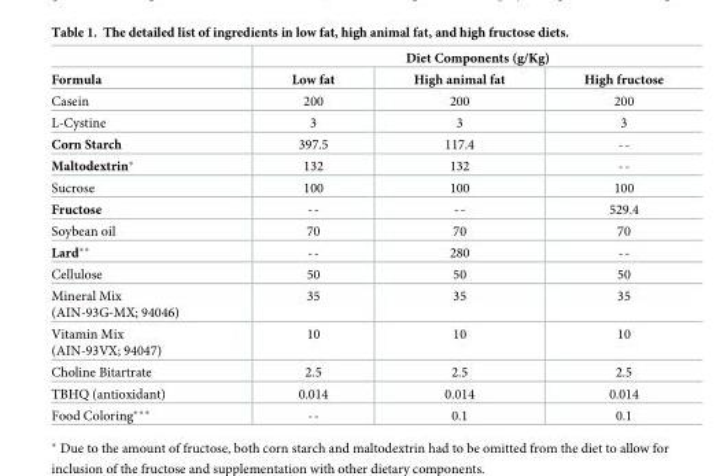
<table><thead><tr><td rowspan="2">Formula</td><td colspan="3">Diet Components (g/Kg)</td></tr><tr><td>Low fat</td><td>High animal fat</td><td>High fructose</td></tr></thead><tbody><tr><td>Casein</td><td>200</td><td>200</td><td>200</td></tr><tr><td>L-Cystine</td><td>3</td><td>3</td><td>3</td></tr><tr><td>Corn Starch</td><td>397.5</td><td>117.4</td><td>--</td></tr><tr><td>Maltodextrin*</td><td>132</td><td>132</td><td>--</td></tr><tr><td>Sucrose</td><td>100</td><td>100</td><td>100</td></tr><tr><td>Fructose</td><td>--</td><td>--</td><td>529.4</td></tr><tr><td>Soybean oil</td><td>70</td><td>70</td><td>70</td></tr><tr><td>Lard**</td><td>--</td><td>280</td><td>--</td></tr><tr><td>Cellulose</td><td>50</td><td>50</td><td>50</td></tr><tr><td>Mineral Mix (AIN-93G-MX; 94046)</td><td>35</td><td>35</td><td>35</td></tr><tr><td>Vitamin Mix (AIN-93VX; 94047)</td><td>10</td><td>10</td><td>10</td></tr><tr><td>Choline Bitartrate</td><td>2.5</td><td>2.5</td><td>2.5</td></tr><tr><td>TBHQ (antioxidant)</td><td>0.014</td><td>0.014</td><td>0.014</td></tr><tr><td>Food Coloring***</td><td>--</td><td>0.1</td><td>0.1</td></tr></tbody></table>